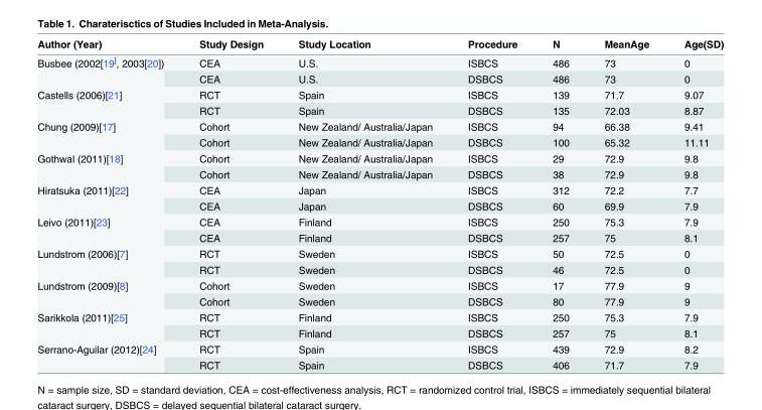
<table><thead><tr><td>Author (Year)</td><td>Study Design</td><td>Study Location</td><td>Procedure</td><td>N</td><td>MeanAge</td><td>Age(SD)</td></tr></thead><tbody><tr><td rowspan="2">Busbee (2002[19<sup>]</sup>, 2003[20])</td><td>CEA</td><td>U.S.</td><td>ISBCS</td><td>486</td><td>73</td><td>0</td></tr><tr><td>CEA</td><td>U.S.</td><td>DSBCS</td><td>486</td><td>73</td><td>0</td></tr><tr><td rowspan="2">Castells (2006)[21]</td><td>RCT</td><td>Spain</td><td>ISBCS</td><td>139</td><td>71.7</td><td>9.07</td></tr><tr><td>RCT</td><td>Spain</td><td>DSBCS</td><td>135</td><td>72.03</td><td>8.87</td></tr><tr><td rowspan="2">Chung (2009)[17]</td><td>Cohort</td><td>New Zealand/ Australia/Japan</td><td>ISBCS</td><td>94</td><td>66.38</td><td>9.41</td></tr><tr><td>Cohort</td><td>New Zealand/ Australia/Japan</td><td>DSBCS</td><td>100</td><td>65.32</td><td>11.11</td></tr><tr><td rowspan="2">Gothwal (2011)[18]</td><td>Cohort</td><td>New Zealand/ Australia/Japan</td><td>ISBCS</td><td>29</td><td>72.9</td><td>9.8</td></tr><tr><td>Cohort</td><td>New Zealand/ Australia/Japan</td><td>DSBCS</td><td>38</td><td>72.9</td><td>9.8</td></tr><tr><td rowspan="2">Hiratsuka (2011)[22]</td><td>CEA</td><td>Japan</td><td>ISBCS</td><td>312</td><td>72.2</td><td>7.7</td></tr><tr><td>CEA</td><td>Japan</td><td>DSBCS</td><td>60</td><td>69.9</td><td>7.9</td></tr><tr><td rowspan="2">Leivo (2011)[23]</td><td>CEA</td><td>Finland</td><td>ISBCS</td><td>250</td><td>75.3</td><td>7.9</td></tr><tr><td>CEA</td><td>Finland</td><td>DSBCS</td><td>257</td><td>75</td><td>8.1</td></tr><tr><td rowspan="2">Lundstrom (2006)[7]</td><td>RCT</td><td>Sweden</td><td>ISBCS</td><td>50</td><td>72.5</td><td>0</td></tr><tr><td>RCT</td><td>Sweden</td><td>DSBCS</td><td>46</td><td>72.5</td><td>0</td></tr><tr><td rowspan="2">Lundstrom (2009)[8]</td><td>Cohort</td><td>Sweden</td><td>ISBCS</td><td>17</td><td>77.9</td><td>9</td></tr><tr><td>Cohort</td><td>Sweden</td><td>DSBCS</td><td>80</td><td>77.9</td><td>9</td></tr><tr><td rowspan="2">Sarikkola (2011)[25]</td><td>RCT</td><td>Finland</td><td>ISBCS</td><td>250</td><td>75.3</td><td>7.9</td></tr><tr><td>RCT</td><td>Finland</td><td>DSBCS</td><td>257</td><td>75</td><td>8.1</td></tr><tr><td rowspan="2">Serrano-Aguilar (2012)[24]</td><td>RCT</td><td>Spain</td><td>ISBCS</td><td>439</td><td>72.9</td><td>8.2</td></tr><tr><td>RCT</td><td>Spain</td><td>DSBCS</td><td>406</td><td>71.7</td><td>7.9</td></tr></tbody></table>